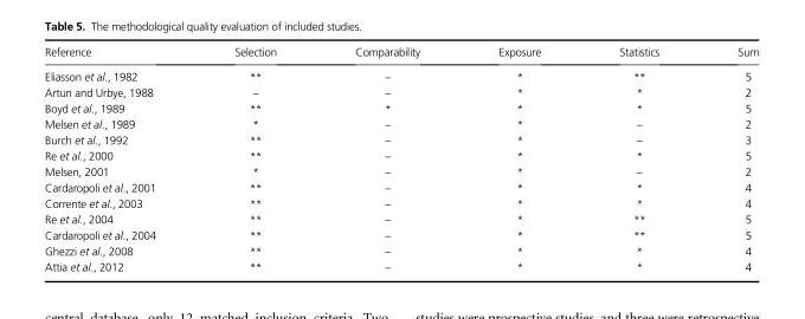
<table><thead><tr><td>Reference</td><td>Selection</td><td>Comparability</td><td>Exposure</td><td>Statistics</td><td>Sum</td></tr></thead><tbody><tr><td>Eliasson et al., 1982</td><td>**</td><td>–</td><td>*</td><td>**</td><td>5</td></tr><tr><td>Artun and Urbye, 1988</td><td>–</td><td>–</td><td>*</td><td>*</td><td>2</td></tr><tr><td>Boyd et al., 1989</td><td>**</td><td>*</td><td>*</td><td>*</td><td>5</td></tr><tr><td>Melsen et al., 1989</td><td>*</td><td>–</td><td>*</td><td>–</td><td>2</td></tr><tr><td>Burch et al., 1992</td><td>**</td><td>–</td><td>*</td><td>–</td><td>3</td></tr><tr><td>Re et al., 2000</td><td>**</td><td>–</td><td>*</td><td>*</td><td>5</td></tr><tr><td>Melsen, 2001</td><td>*</td><td>–</td><td>*</td><td>–</td><td>2</td></tr><tr><td>Cardaropoli et al., 2001</td><td>**</td><td>–</td><td>*</td><td>*</td><td>4</td></tr><tr><td>Corrente et al., 2003</td><td>**</td><td>–</td><td>*</td><td>*</td><td>4</td></tr><tr><td>Re et al., 2004</td><td>**</td><td>–</td><td>*</td><td>**</td><td>5</td></tr><tr><td>Cardaropoli et al., 2004</td><td>**</td><td>–</td><td>*</td><td>**</td><td>5</td></tr><tr><td>Ghezzi et al., 2008</td><td>**</td><td>–</td><td>*</td><td>*</td><td>4</td></tr><tr><td>Attia et al., 2012</td><td>**</td><td>–</td><td>*</td><td>*</td><td>4</td></tr></tbody></table>